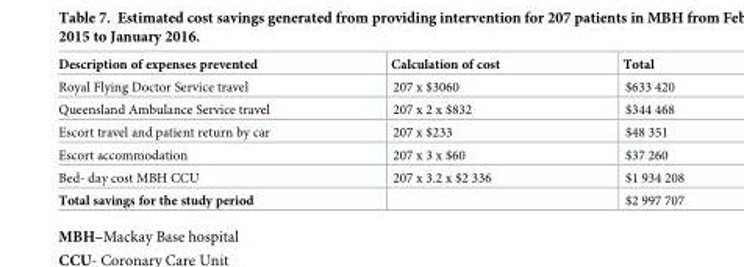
<table><thead><tr><td>Description of expenses prevented</td><td>Calculation of cost</td><td>Total</td></tr></thead><tbody><tr><td>Royal Flying Doctor Service travel</td><td>207 x $3060</td><td>$633 420</td></tr><tr><td>Queensland Ambulance Service travel</td><td>207 x 2 x $832</td><td>$344 468</td></tr><tr><td>Escort travel and patient return by car</td><td>207 x $233</td><td>$48 351</td></tr><tr><td>Escort accommodation</td><td>207 x 3 x $60</td><td>$37 260</td></tr><tr><td>Bed- day cost MBH CCU</td><td>207 x 3.2 x $2 336</td><td>$1 934 208</td></tr><tr><td>Total savings for the study period</td><td></td><td>$2 997 707</td></tr></tbody></table>